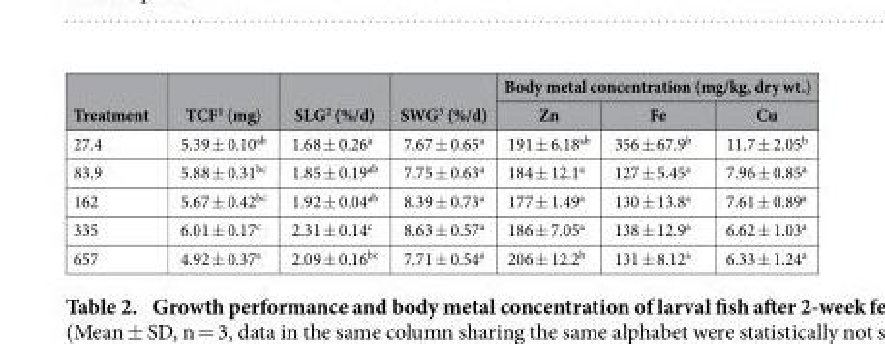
<table><thead><tr><td rowspan="2">Treatment</td><td rowspan="2">TCF<sup>1</sup> (mg)</td><td rowspan="2">SLG<sup>2</sup> (%/d)</td><td rowspan="2">SWG<sup>3</sup> (%/d)</td><td colspan="3">Body metal concentration (mg/kg, dry wt.)</td></tr><tr><td>Zn</td><td>Fe</td><td>Cu</td></tr></thead><tbody><tr><td>27.4</td><td>5.39 ± 0.10<sup>ab</sup></td><td>1.68 ± 0.26<sup>a</sup></td><td>7.67 ± 0.65<sup>a</sup></td><td>191 ± 6.18<sup>ab</sup></td><td>356 ± 67.9<sup>b</sup></td><td>11.7 ± 2.05<sup>b</sup></td></tr><tr><td>83.9</td><td>5.88 ± 0.31<sup>bc</sup></td><td>1.85 ± 0.19<sup>ab</sup></td><td>7.75 ± 0.63<sup>a</sup></td><td>184 ± 12.1<sup>a</sup></td><td>127 ± 5.45<sup>a</sup></td><td>7.96 ± 0.85<sup>a</sup></td></tr><tr><td>162</td><td>5.67 ± 0.42<sup>bc</sup></td><td>1.92 ± 0.04<sup>ab</sup></td><td>8.39 ± 0.73<sup>a</sup></td><td>177 ± 1.49<sup>a</sup></td><td>130 ± 13.8<sup>a</sup></td><td>7.61 ± 0.89<sup>a</sup></td></tr><tr><td>335</td><td>6.01 ± 0.17<sup>c</sup></td><td>2.31 ± 0.14<sup>c</sup></td><td>8.63 ± 0.57<sup>a</sup></td><td>186 ± 7.05<sup>a</sup></td><td>138 ± 12.9<sup>a</sup></td><td>6.62 ± 1.03<sup>a</sup></td></tr><tr><td>657</td><td>4.92 ± 0.37<sup>a</sup></td><td>2.09 ± 0.16<sup>bc</sup></td><td>7.71 ± 0.54<sup>a</sup></td><td>206 ± 12.2<sup>b</sup></td><td>131 ± 8.12<sup>a</sup></td><td>6.33 ± 1.24<sup>a</sup></td></tr></tbody></table>